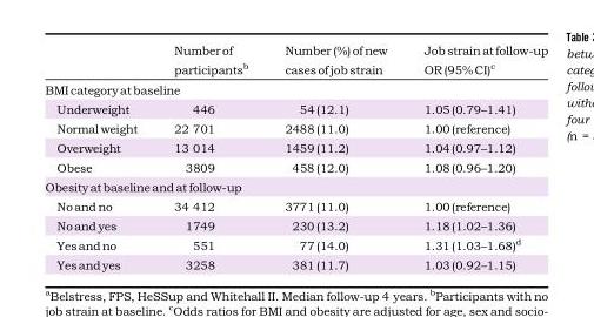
<table><thead><tr><td></td><td>Numberof participants<sup>b</sup></td><td>Number(%)ofnew casesofjobstrain</td><td>Jobstrainatfollow-up OR(95%CI)<sup>c</sup></td></tr></thead><tbody><tr><td colspan="4">BMIcategoryat baseline</td></tr><tr><td>Underweight</td><td>446</td><td>54(12.1)</td><td>1.05(0.79–1.41)</td></tr><tr><td>Normalweight</td><td>22 701</td><td>2488(11.0)</td><td>1.00(reference)</td></tr><tr><td>Overweight</td><td>13 014</td><td>1459(11.2)</td><td>1.04(0.97–1.12)</td></tr><tr><td>Obese</td><td>3809</td><td>458(12.0)</td><td>1.08(0.96–1.20)</td></tr><tr><td colspan="4">Obesityatbaselineandat follow-up</td></tr><tr><td>Noandno</td><td>34 412</td><td>3771(11.0)</td><td>1.00(reference)</td></tr><tr><td>Noandyes</td><td>1749</td><td>230(13.2)</td><td>1.18(1.02–1.36)</td></tr><tr><td>Yesandno</td><td>551</td><td>77(14.0)</td><td>1.31(1.03–1.68)<sup>d</sup></td></tr><tr><td>Yesandyes</td><td>3258</td><td>381(11.7)</td><td>1.03(0.92–1.15)</td></tr></tbody></table>